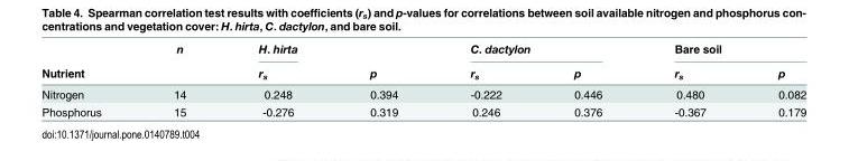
<table><thead><tr><td rowspan="2">Nutrient</td><td rowspan="2">n</td><td rowspan="2">H. hirta r<sub>s</sub></td><td rowspan="2">p</td><td colspan="2">C. dactylon</td><td colspan="2">Bare soil</td></tr><tr><td>r<sub>s</sub></td><td>p</td><td>r<sub>s</sub></td><td>p</td></tr></thead><tbody><tr><td>Nitrogen</td><td>14</td><td>0.248</td><td>0.394</td><td>-0.222</td><td>0.446</td><td>0.480</td><td>0.082</td></tr><tr><td>Phosphorus</td><td>15</td><td>-0.276</td><td>0.319</td><td>0.246</td><td>0.376</td><td>-0.367</td><td>0.179</td></tr></tbody></table>